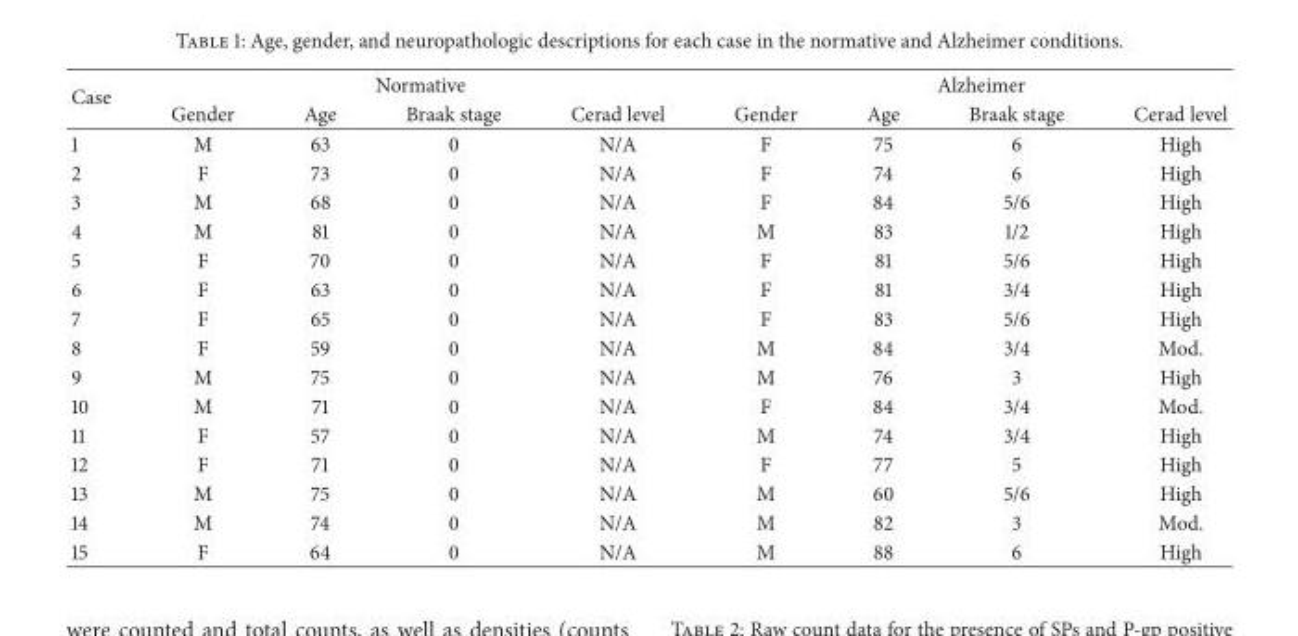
<table><thead><tr><td rowspan="2">Case</td><td colspan="4">Normative</td><td colspan="4">Alzheimer</td></tr><tr><td>Gender</td><td>Age</td><td>Braak stage</td><td>Cerad level</td><td>Gender</td><td>Age</td><td>Braak stage</td><td>Cerad level</td></tr></thead><tbody><tr><td>1</td><td>M</td><td>63</td><td>0</td><td>N/A</td><td>F</td><td>75</td><td>6</td><td>High</td></tr><tr><td>2</td><td>F</td><td>73</td><td>0</td><td>N/A</td><td>F</td><td>74</td><td>6</td><td>High</td></tr><tr><td>3</td><td>M</td><td>68</td><td>0</td><td>N/A</td><td>F</td><td>84</td><td>5/6</td><td>High</td></tr><tr><td>4</td><td>M</td><td>81</td><td>0</td><td>N/A</td><td>M</td><td>83</td><td>1/2</td><td>High</td></tr><tr><td>5</td><td>F</td><td>70</td><td>0</td><td>N/A</td><td>F</td><td>81</td><td>5/6</td><td>High</td></tr><tr><td>6</td><td>F</td><td>63</td><td>0</td><td>N/A</td><td>F</td><td>81</td><td>3/4</td><td>High</td></tr><tr><td>7</td><td>F</td><td>65</td><td>0</td><td>N/A</td><td>F</td><td>83</td><td>5/6</td><td>High</td></tr><tr><td>8</td><td>F</td><td>59</td><td>0</td><td>N/A</td><td>M</td><td>84</td><td>3/4</td><td>Mod.</td></tr><tr><td>9</td><td>M</td><td>75</td><td>0</td><td>N/A</td><td>M</td><td>76</td><td>3</td><td>High</td></tr><tr><td>10</td><td>M</td><td>71</td><td>0</td><td>N/A</td><td>F</td><td>84</td><td>3/4</td><td>Mod.</td></tr><tr><td>11</td><td>F</td><td>57</td><td>0</td><td>N/A</td><td>M</td><td>74</td><td>3/4</td><td>High</td></tr><tr><td>12</td><td>F</td><td>71</td><td>0</td><td>N/A</td><td>F</td><td>77</td><td>5</td><td>High</td></tr><tr><td>13</td><td>M</td><td>75</td><td>0</td><td>N/A</td><td>M</td><td>60</td><td>5/6</td><td>High</td></tr><tr><td>14</td><td>M</td><td>74</td><td>0</td><td>N/A</td><td>M</td><td>82</td><td>3</td><td>Mod.</td></tr><tr><td>15</td><td>F</td><td>64</td><td>0</td><td>N/A</td><td>M</td><td>88</td><td>6</td><td>High</td></tr></tbody></table>